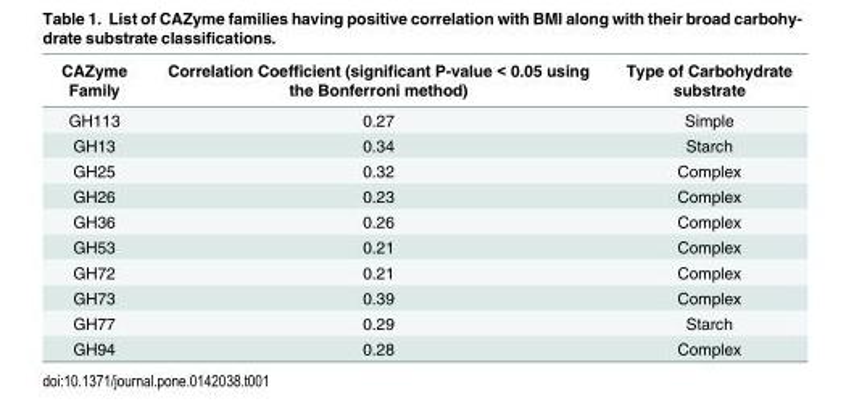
<table><thead><tr><td>CAZyme Family</td><td>Correlation Coefficient (significant P-value &lt; 0.05 using the Bonferroni method)</td><td>Type of Carbohydrate substrate</td></tr></thead><tbody><tr><td>GH113</td><td>0.27</td><td>Simple</td></tr><tr><td>GH13</td><td>0.34</td><td>Starch</td></tr><tr><td>GH25</td><td>0.32</td><td>Complex</td></tr><tr><td>GH26</td><td>0.23</td><td>Complex</td></tr><tr><td>GH36</td><td>0.26</td><td>Complex</td></tr><tr><td>GH53</td><td>0.21</td><td>Complex</td></tr><tr><td>GH72</td><td>0.21</td><td>Complex</td></tr><tr><td>GH73</td><td>0.39</td><td>Complex</td></tr><tr><td>GH77</td><td>0.29</td><td>Starch</td></tr><tr><td>GH94</td><td>0.28</td><td>Complex</td></tr></tbody></table>